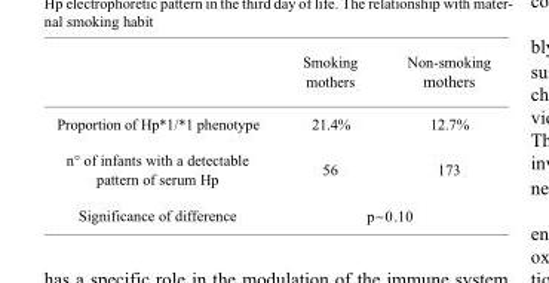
<table><thead><tr><td></td><td>Smoking mothers</td><td>Non-smoking mothers</td></tr></thead><tbody><tr><td>Proportion of Hp*1/*1 phenotype</td><td>21.4%</td><td>12.7%</td></tr><tr><td>n° of infants with a detectable pattern of serum Hp</td><td>56</td><td>173</td></tr><tr><td>Significance of difference</td><td colspan="2">p∼0.10</td></tr></tbody></table>